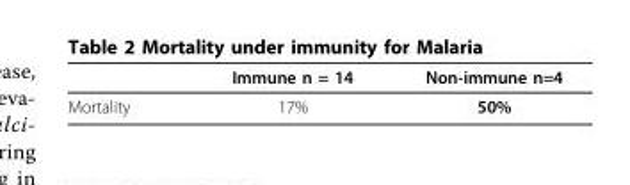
<table><thead><tr><td></td><td>Immune n = 14</td><td>Non-immune n=4</td></tr></thead><tbody><tr><td>Mortality</td><td>17%</td><td>50%</td></tr></tbody></table>